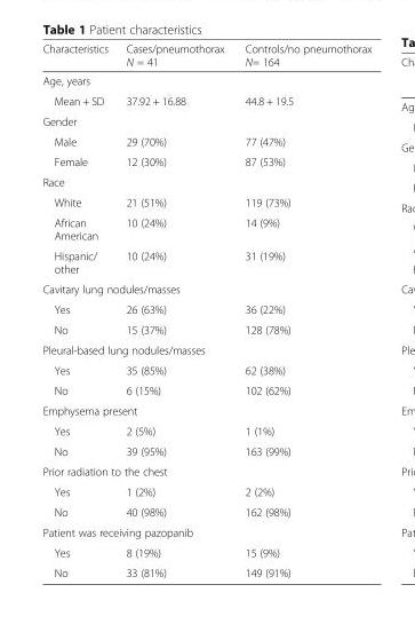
<table><thead><tr><td>Characteristics</td><td>Cases/pneumothorax N = 41</td><td>Controls/no pneumothorax N= 164</td></tr></thead><tbody><tr><td colspan="3">Age, years</td></tr><tr><td>Mean + SD</td><td>37.92 + 16.88</td><td>44.8 + 19.5</td></tr><tr><td colspan="3">Gender</td></tr><tr><td>Male</td><td>29 (70%)</td><td>77 (47%)</td></tr><tr><td>Female</td><td>12 (30%)</td><td>87 (53%)</td></tr><tr><td colspan="3">Race</td></tr><tr><td>White</td><td>21 (51%)</td><td>119 (73%)</td></tr><tr><td>African American</td><td>10 (24%)</td><td>14 (9%)</td></tr><tr><td>Hispanic/ other</td><td>10 (24%)</td><td>31 (19%)</td></tr><tr><td colspan="3">Cavitary lung nodules/masses</td></tr><tr><td>Yes</td><td>26 (63%)</td><td>36 (22%)</td></tr><tr><td>No</td><td>15 (37%)</td><td>128 (78%)</td></tr><tr><td colspan="3">Pleural-based lung nodules/masses</td></tr><tr><td>Yes</td><td>35 (85%)</td><td>62 (38%)</td></tr><tr><td>No</td><td>6 (15%)</td><td>102 (62%)</td></tr><tr><td colspan="3">Emphysema present</td></tr><tr><td>Yes</td><td>2 (5%)</td><td>1 (1%)</td></tr><tr><td>No</td><td>39 (95%)</td><td>163 (99%)</td></tr><tr><td colspan="3">Prior radiation to the chest</td></tr><tr><td>Yes</td><td>1 (2%)</td><td>2 (2%)</td></tr><tr><td>No</td><td>40 (98%)</td><td>162 (98%)</td></tr><tr><td colspan="3">Patient was receiving pazopanib</td></tr><tr><td>Yes</td><td>8 (19%)</td><td>15 (9%)</td></tr><tr><td>No</td><td>33 (81%)</td><td>149 (91%)</td></tr></tbody></table>